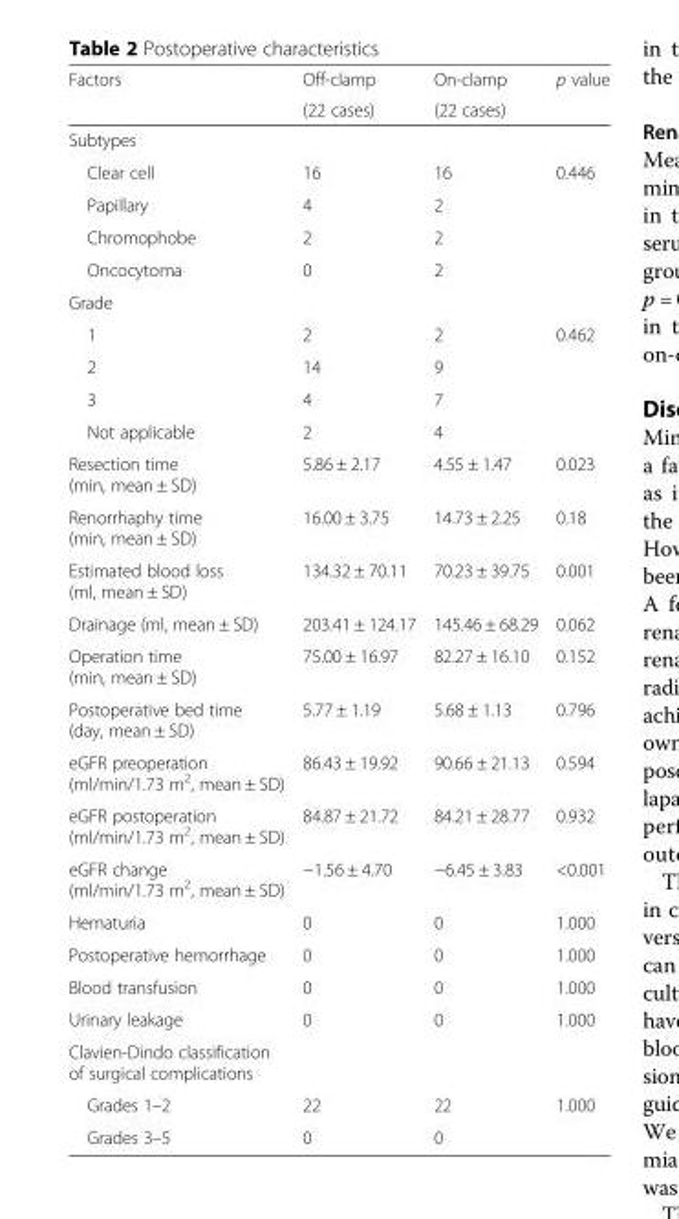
<table><thead><tr><td rowspan="2">Factors</td><td rowspan="2">Off-clamp (22 cases)</td><td rowspan="2">On-clamp (22 cases)</td><td rowspan="2">p value</td></tr><tr></tr></thead><tbody><tr><td colspan="4">Subtypes</td></tr><tr><td>Clear cell</td><td>16</td><td>16</td><td>0.446</td></tr><tr><td>Papillary</td><td>4</td><td>2</td><td></td></tr><tr><td>Chromophobe</td><td>2</td><td>2</td><td></td></tr><tr><td>Oncocytoma</td><td>0</td><td>2</td><td></td></tr><tr><td colspan="4">Grade</td></tr><tr><td>1</td><td>2</td><td>2</td><td>0.462</td></tr><tr><td>2</td><td>14</td><td>9</td><td></td></tr><tr><td>3</td><td>4</td><td>7</td><td></td></tr><tr><td>Not applicable</td><td>2</td><td>4</td><td></td></tr><tr><td>Resection time (min, mean ± SD)</td><td>5.86 ± 2.17</td><td>4.55 ± 1.47</td><td>0.023</td></tr><tr><td>Renorrhaphy time (min, mean ± SD)</td><td>16.00 ± 3.75</td><td>14.73 ± 2.25</td><td>0.18</td></tr><tr><td>Estimated blood loss (ml, mean ± SD)</td><td>134.32 ± 70.11</td><td>70.23 ± 39.75</td><td>0.001</td></tr><tr><td>Drainage (ml, mean ± SD)</td><td>203.41 ± 124.17</td><td>145.46 ± 68.29</td><td>0.062</td></tr><tr><td>Operation time (min, mean ± SD)</td><td>75.00 ± 16.97</td><td>82.27 ± 16.10</td><td>0.152</td></tr><tr><td>Postoperative bed time (day, mean ± SD)</td><td>5.77 ± 1.19</td><td>5.68 ± 1.13</td><td>0.796</td></tr><tr><td>eGFR preoperation (ml/min/1.73 m<sup>2</sup>, mean ± SD)</td><td>86.43 ± 19.92</td><td>90.66 ± 21.13</td><td>0.594</td></tr><tr><td>eGFR postoperation (ml/min/1.73 m<sup>2</sup>, mean ± SD)</td><td>84.87 ± 21.72</td><td>84.21 ± 28.77</td><td>0.932</td></tr><tr><td>eGFR change (ml/min/1.73 m<sup>2</sup>, mean ± SD)</td><td>−1.56 ± 4.70</td><td>−6.45 ± 3.83</td><td>&lt;0.001</td></tr><tr><td>Hematuria</td><td>0</td><td>0</td><td>1.000</td></tr><tr><td>Postoperative hemorrhage</td><td>0</td><td>0</td><td>1.000</td></tr><tr><td>Blood transfusion</td><td>0</td><td>0</td><td>1.000</td></tr><tr><td>Urinary leakage</td><td>0</td><td>0</td><td>1.000</td></tr><tr><td colspan="4">Clavien-Dindo classification of surgical complications</td></tr><tr><td>Grades 1–2</td><td>22</td><td>22</td><td>1.000</td></tr><tr><td>Grades 3–5</td><td>0</td><td>0</td><td></td></tr></tbody></table>